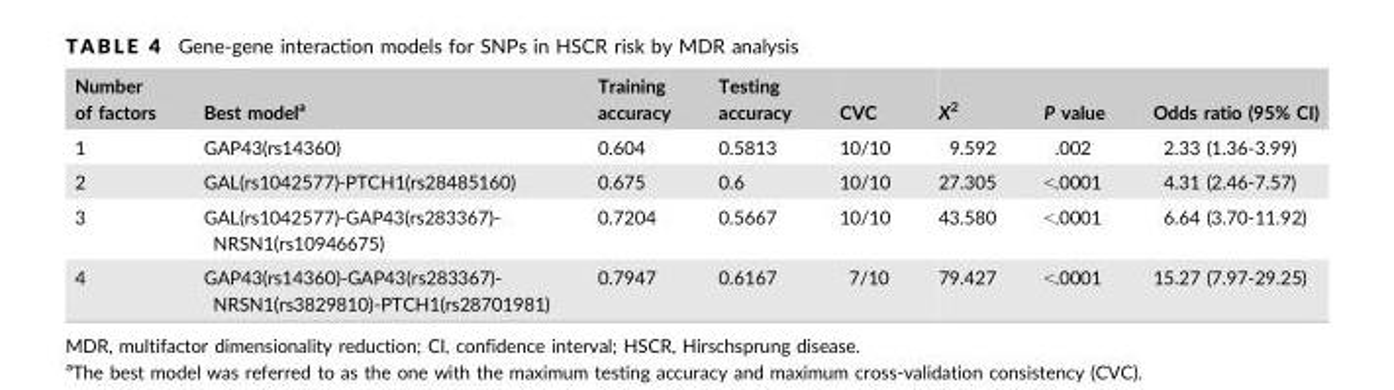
<table><thead><tr><td>Number of factors</td><td>Best model<sup>a</sup></td><td>Training accuracy</td><td>Testing accuracy</td><td>CVC</td><td>X<sup>2</sup></td><td>P value</td><td>Odds ratio (95% CI)</td></tr></thead><tbody><tr><td>1</td><td>GAP43(rs14360)</td><td>0.604</td><td>0.5813</td><td>10/10</td><td>9.592</td><td>.002</td><td>2.33 (1.36-3.99)</td></tr><tr><td>2</td><td>GAL(rs1042577)-PTCH1(rs28485160)</td><td>0.675</td><td>0.6</td><td>10/10</td><td>27.305</td><td>&lt;.0001</td><td>4.31 (2.46-7.57)</td></tr><tr><td>3</td><td>GAL(rs1042577)-GAP43(rs283367)- NRSN1(rs10946675)</td><td>0.7204</td><td>0.5667</td><td>10/10</td><td>43.580</td><td>&lt;.0001</td><td>6.64 (3.70-11.92)</td></tr><tr><td>4</td><td>GAP43(rs14360)-GAP43(rs283367)- NRSN1(rs3829810)-PTCH1(rs28701981)</td><td>0.7947</td><td>0.6167</td><td>7/10</td><td>79.427</td><td>&lt;.0001</td><td>15.27 (7.97-29.25)</td></tr></tbody></table>